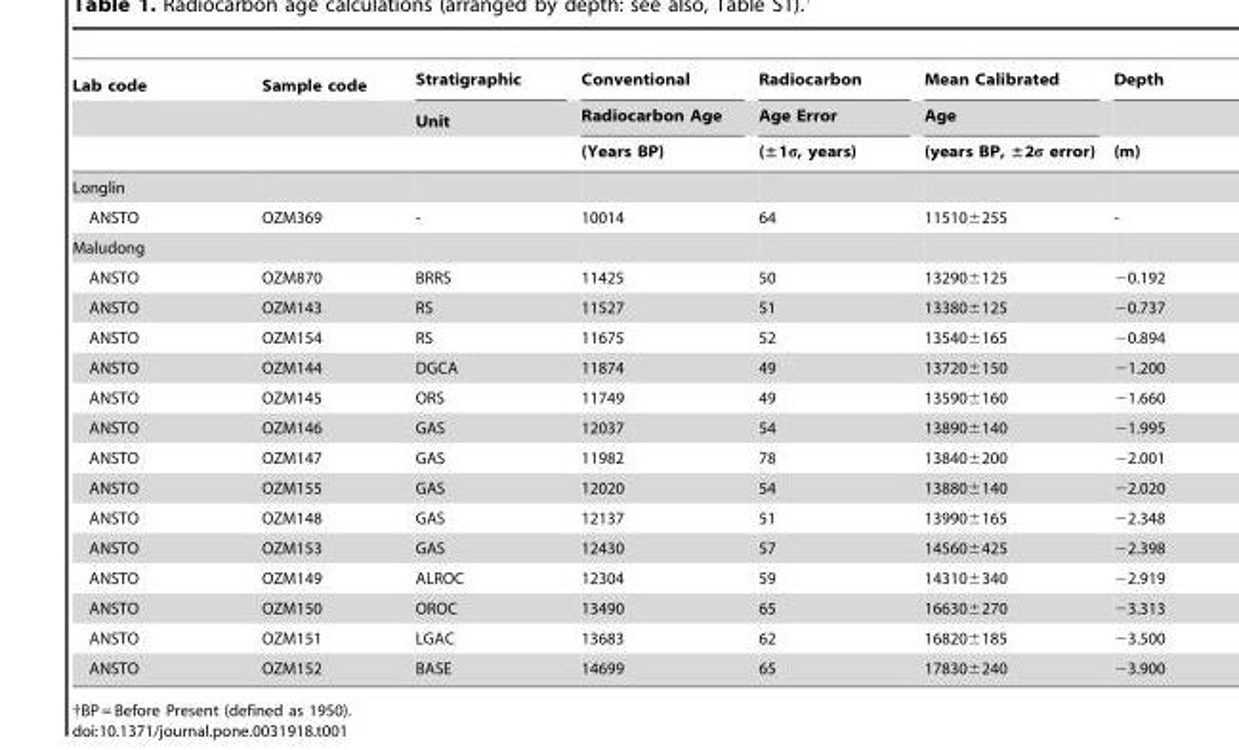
<table><thead><tr><td rowspan="3">Lab code</td><td rowspan="3">Sample code</td><td rowspan="3">Stratigraphic Unit</td><td rowspan="3">Conventional Radiocarbon Age (Years BP)</td><td rowspan="3">Radiocarbon Age Error (±1σ, years)</td><td rowspan="3">Mean Calibrated Age (years BP, ±2σ error)</td><td rowspan="3">Depth (m)</td></tr><tr></tr><tr></tr></thead><tbody><tr><td colspan="7">Longlin</td></tr><tr><td>ANSTO</td><td>OZM369</td><td>-</td><td>10014</td><td>64</td><td>11510±255</td><td>-</td></tr><tr><td colspan="7">Maludong</td></tr><tr><td>ANSTO</td><td>OZM870</td><td>BRRS</td><td>11425</td><td>50</td><td>13290±125</td><td>−0.192</td></tr><tr><td>ANSTO</td><td>OZM143</td><td>RS</td><td>11527</td><td>51</td><td>13380±125</td><td>−0.737</td></tr><tr><td>ANSTO</td><td>OZM154</td><td>RS</td><td>11675</td><td>52</td><td>13540±165</td><td>−0.894</td></tr><tr><td>ANSTO</td><td>OZM144</td><td>DGCA</td><td>11874</td><td>49</td><td>13720±150</td><td>−1.200</td></tr><tr><td>ANSTO</td><td>OZM145</td><td>ORS</td><td>11749</td><td>49</td><td>13590±160</td><td>−1.660</td></tr><tr><td>ANSTO</td><td>OZM146</td><td>GAS</td><td>12037</td><td>54</td><td>13890±140</td><td>−1.995</td></tr><tr><td>ANSTO</td><td>OZM147</td><td>GAS</td><td>11982</td><td>78</td><td>13840±200</td><td>−2.001</td></tr><tr><td>ANSTO</td><td>OZM155</td><td>GAS</td><td>12020</td><td>54</td><td>13880±140</td><td>−2.020</td></tr><tr><td>ANSTO</td><td>OZM148</td><td>GAS</td><td>12137</td><td>51</td><td>13990±165</td><td>−2.348</td></tr><tr><td>ANSTO</td><td>OZM153</td><td>GAS</td><td>12430</td><td>57</td><td>14560±425</td><td>−2.398</td></tr><tr><td>ANSTO</td><td>OZM149</td><td>ALROC</td><td>12304</td><td>59</td><td>14310±340</td><td>−2.919</td></tr><tr><td>ANSTO</td><td>OZM150</td><td>OROC</td><td>13490</td><td>65</td><td>16630±270</td><td>−3.313</td></tr><tr><td>ANSTO</td><td>OZM151</td><td>LGAC</td><td>13683</td><td>62</td><td>16820±185</td><td>−3.500</td></tr><tr><td>ANSTO</td><td>OZM152</td><td>BASE</td><td>14699</td><td>65</td><td>17830±240</td><td>−3.900</td></tr></tbody></table>